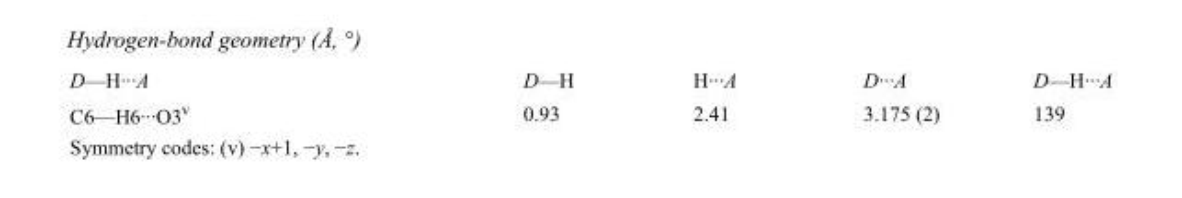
<table><tbody><tr><td>D—H···A</td><td>D—H</td><td>H···A</td><td>D···A</td><td>D—H···A</td></tr><tr><td>C6—H6···O3<sup>v</sup></td><td>0.93</td><td>2.41</td><td>3.175 (2)</td><td>139</td></tr></tbody></table>